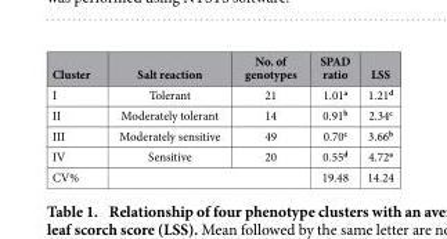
<table><thead><tr><td>Cluster</td><td>Salt reaction</td><td>No. of genotypes</td><td>SPAD ratio</td><td>LSS</td></tr></thead><tbody><tr><td>I</td><td>Tolerant</td><td>21</td><td>1.01<sup>a</sup></td><td>1.21<sup>d</sup></td></tr><tr><td>II</td><td>Moderately tolerant</td><td>14</td><td>0.91<sup>b</sup></td><td>2.34<sup>c</sup></td></tr><tr><td>III</td><td>Moderately sensitive</td><td>49</td><td>0.70<sup>c</sup></td><td>3.66<sup>b</sup></td></tr><tr><td>IV</td><td>Sensitive</td><td>20</td><td>0.55<sup>d</sup></td><td>4.72<sup>a</sup></td></tr><tr><td>CV%</td><td colspan="2"></td><td>19.48</td><td>14.24</td></tr></tbody></table>